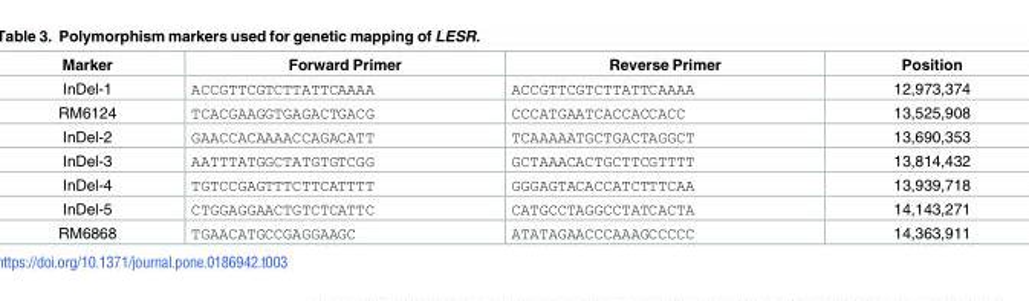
<table><thead><tr><td>Marker</td><td>Forward Primer</td><td>Reverse Primer</td><td>Position</td></tr></thead><tbody><tr><td>InDel-1</td><td>ACCGTTCGTCTTATTCAAAA</td><td>ACCGTTCGTCTTATTCAAAA</td><td>12,973,374</td></tr><tr><td>RM6124</td><td>TCACGAAGGTGAGACTGACG</td><td>CCCATGAATCACCACCACC</td><td>13,525,908</td></tr><tr><td>InDel-2</td><td>GAACCACAAAACCAGACATT</td><td>TCAAAAATGCTGACTAGGCT</td><td>13,690,353</td></tr><tr><td>InDel-3</td><td>AATTTATGGCTATGTGTCGG</td><td>GCTAAACACTGCTTCGTTTT</td><td>13,814,432</td></tr><tr><td>InDel-4</td><td>TGTCCGAGTTTCTTCATTTT</td><td>GGGAGTACACCATCTTTCAA</td><td>13,939,718</td></tr><tr><td>InDel-5</td><td>CTGGAGGAACTGTCTCATTC</td><td>CATGCCTAGGCCTATCACTA</td><td>14,143,271</td></tr><tr><td>RM6868</td><td>TGAACATGCCGAGGAAGC</td><td>ATATAGAACCCAAAGCCCCC</td><td>14,363,911</td></tr></tbody></table>